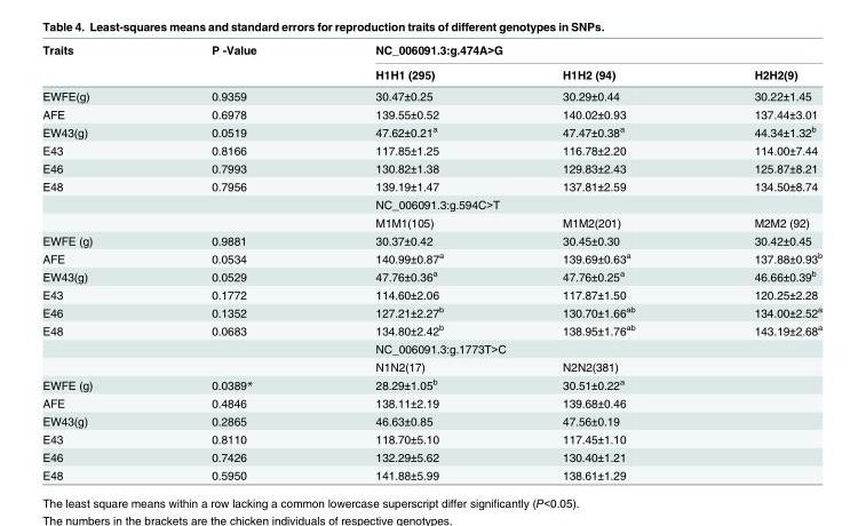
<table><thead><tr><td rowspan="2">Traits</td><td rowspan="2">P -Value</td><td colspan="3">NC_006091.3:g.474A&gt;G</td></tr><tr><td>H1H1 (295)</td><td>H1H2 (94)</td><td>H2H2(9)</td></tr></thead><tbody><tr><td>EWFE(g)</td><td>0.9359</td><td>30.47±0.25</td><td>30.29±0.44</td><td>30.22±1.45</td></tr><tr><td>AFE</td><td>0.6978</td><td>139.55±0.52</td><td>140.02±0.93</td><td>137.44±3.01</td></tr><tr><td>EW43(g)</td><td>0.0519</td><td>47.62±0.21<sup>a</sup></td><td>47.47±0.38<sup>a</sup></td><td>44.34±1.32<sup>b</sup></td></tr><tr><td>E43</td><td>0.8166</td><td>117.85±1.25</td><td>116.78±2.20</td><td>114.00±7.44</td></tr><tr><td>E46</td><td>0.7993</td><td>130.82±1.38</td><td>129.83±2.43</td><td>125.87±8.21</td></tr><tr><td rowspan="3">E48</td><td>0.7956</td><td>139.19±1.47</td><td>137.81±2.59</td><td>134.50±8.74</td></tr><tr><td></td><td colspan="3">NC_006091.3:g.594C&gt;T</td></tr><tr><td></td><td>M1M1(105)</td><td>M1M2(201)</td><td>M2M2 (92)</td></tr><tr><td>EWFE (g)</td><td>0.9881</td><td>30.37±0.42</td><td>30.45±0.30</td><td>30.42±0.45</td></tr><tr><td>AFE</td><td>0.0534</td><td>140.99±0.87<sup>a</sup></td><td>139.69±0.63<sup>a</sup></td><td>137.88±0.93<sup>b</sup></td></tr><tr><td>EW43(g)</td><td>0.0529</td><td>47.76±0.36<sup>a</sup></td><td>47.76±0.25<sup>a</sup></td><td>46.66±0.39<sup>b</sup></td></tr><tr><td>E43</td><td>0.1772</td><td>114.60±2.06</td><td>117.87±1.50</td><td>120.25±2.28</td></tr><tr><td>E46</td><td>0.1352</td><td>127.21±2.27<sup>b</sup></td><td>130.70±1.66<sup>ab</sup></td><td>134.00±2.52<sup>a</sup></td></tr><tr><td rowspan="3">E48</td><td>0.0683</td><td>134.80±2.42<sup>b</sup></td><td>138.95±1.76<sup>ab</sup></td><td>143.19±2.68<sup>a</sup></td></tr><tr><td></td><td colspan="3">NC_006091.3:g.1773T&gt;C</td></tr><tr><td></td><td>N1N2(17)</td><td>N2N2(381)</td><td></td></tr><tr><td>EWFE (g)</td><td>0.0389*</td><td>28.29±1.05<sup>b</sup></td><td>30.51±0.22<sup>a</sup></td><td></td></tr><tr><td>AFE</td><td>0.4846</td><td>138.11±2.19</td><td>139.68±0.46</td><td></td></tr><tr><td>EW43(g)</td><td>0.2865</td><td>46.63±0.85</td><td>47.56±0.19</td><td></td></tr><tr><td>E43</td><td>0.8110</td><td>118.70±5.10</td><td>117.45±1.10</td><td></td></tr><tr><td>E46</td><td>0.7426</td><td>132.29±5.62</td><td>130.40±1.21</td><td></td></tr><tr><td>E48</td><td>0.5950</td><td>141.88±5.99</td><td>138.61±1.29</td><td></td></tr></tbody></table>